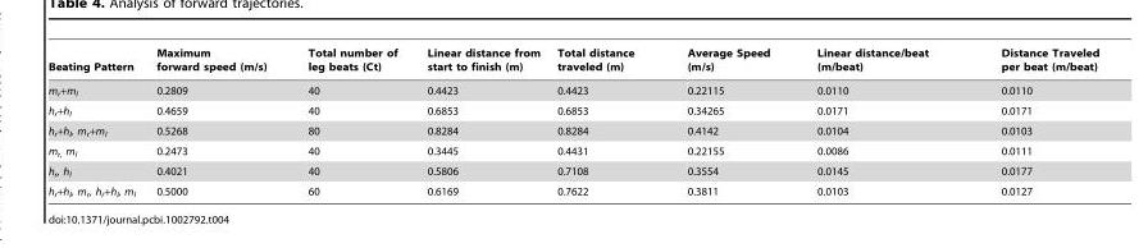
<table><thead><tr><td>Beating Pattern</td><td>Maximum forward speed (m/s)</td><td>Total number of leg beats (Ct)</td><td>Linear distance from start to finish (m)</td><td>Total distance traveled (m)</td><td>Average Speed (m/s)</td><td>Linear distance/beat (m/beat)</td><td>Distance Traveled per beat (m/beat)</td></tr></thead><tbody><tr><td>m<sub>r</sub>+m<sub>l</sub></td><td>0.2809</td><td>40</td><td>0.4423</td><td>0.4423</td><td>0.22115</td><td>0.0110</td><td>0.0110</td></tr><tr><td>h<sub>r</sub>+h<sub>l</sub></td><td>0.4659</td><td>40</td><td>0.6853</td><td>0.6853</td><td>0.34265</td><td>0.0171</td><td>0.0171</td></tr><tr><td>h<sub>r</sub>+h<sub>l</sub>, m<sub>r</sub>+m<sub>l</sub></td><td>0.5268</td><td>80</td><td>0.8284</td><td>0.8284</td><td>0.4142</td><td>0.0104</td><td>0.0103</td></tr><tr><td>m<sub>r,</sub> m<sub>l</sub></td><td>0.2473</td><td>40</td><td>0.3445</td><td>0.4431</td><td>0.22155</td><td>0.0086</td><td>0.0111</td></tr><tr><td>h<sub>r</sub>, h<sub>l</sub></td><td>0.4021</td><td>40</td><td>0.5806</td><td>0.7108</td><td>0.3554</td><td>0.0145</td><td>0.0177</td></tr><tr><td>h<sub>r</sub>+h<sub>l</sub>, m<sub>r</sub>, h<sub>r</sub>+h<sub>l</sub>, m<sub>l</sub></td><td>0.5000</td><td>60</td><td>0.6169</td><td>0.7622</td><td>0.3811</td><td>0.0103</td><td>0.0127</td></tr></tbody></table>